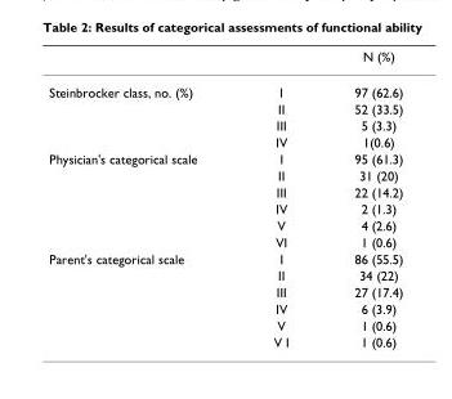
<table><thead><tr><td></td><td></td><td>N (%)</td></tr></thead><tbody><tr><td rowspan="4">Steinbrocker class, no. (%)</td><td>I</td><td>97 (62.6)</td></tr><tr><td>II</td><td>52 (33.5)</td></tr><tr><td>III</td><td>5 (3.3)</td></tr><tr><td>IV</td><td>1(0.6)</td></tr><tr><td rowspan="6">Physician&#x27;s categorical scale</td><td>I</td><td>95 (61.3)</td></tr><tr><td>II</td><td>31 (20)</td></tr><tr><td>III</td><td>22 (14.2)</td></tr><tr><td>IV</td><td>2 (1.3)</td></tr><tr><td>V</td><td>4 (2.6)</td></tr><tr><td>VI</td><td>1 (0.6)</td></tr><tr><td rowspan="6">Parent&#x27;s categorical scale</td><td>I</td><td>86 (55.5)</td></tr><tr><td>II</td><td>34 (22)</td></tr><tr><td>III</td><td>27 (17.4)</td></tr><tr><td>IV</td><td>6 (3.9)</td></tr><tr><td>V</td><td>1 (0.6)</td></tr><tr><td>V I</td><td>1 (0.6)</td></tr></tbody></table>